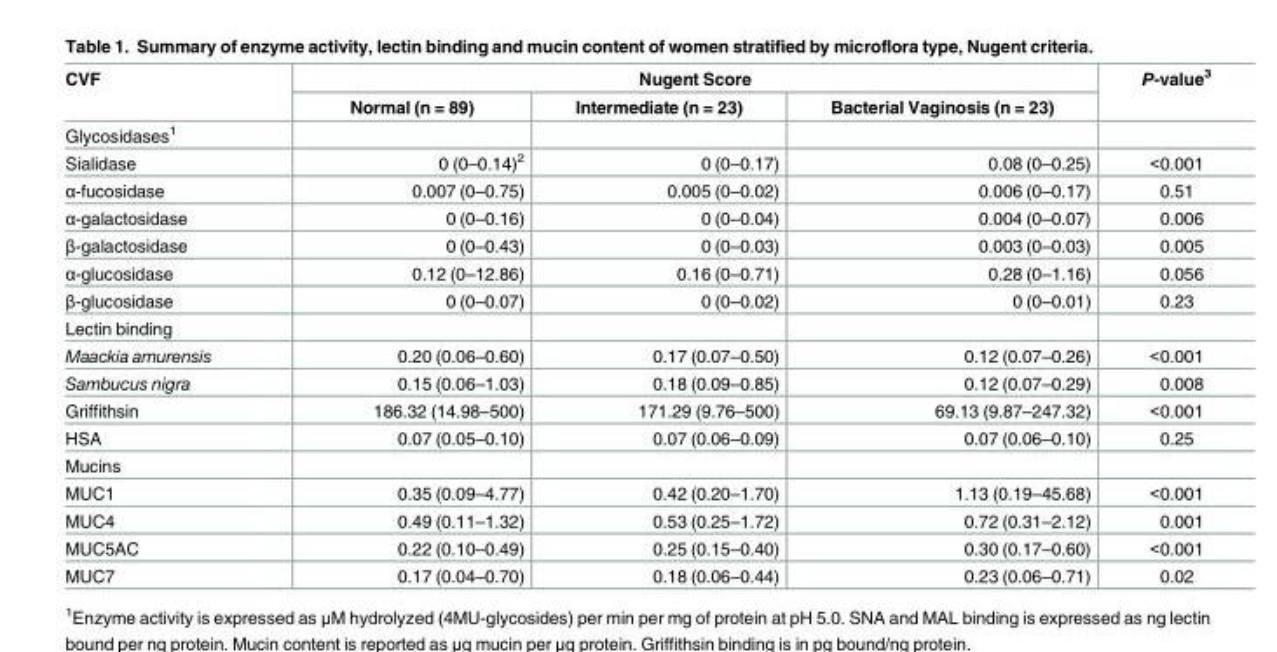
<table><thead><tr><td rowspan="2">CVF</td><td colspan="3">Nugent Score</td><td rowspan="2">P-value<sup>3</sup></td></tr><tr><td>Normal (n = 89)</td><td>Intermediate (n = 23)</td><td>Bacterial Vaginosis (n = 23)</td></tr></thead><tbody><tr><td colspan="5">Glycosidases<sup>1</sup></td></tr><tr><td>Sialidase</td><td>0 (0–0.14)<sup>2</sup></td><td>0 (0–0.17)</td><td>0.08 (0–0.25)</td><td>&lt;0.001</td></tr><tr><td>α-fucosidase</td><td>0.007 (0–0.75)</td><td>0.005 (0–0.02)</td><td>0.006 (0–0.17)</td><td>0.51</td></tr><tr><td>α-galactosidase</td><td>0 (0–0.16)</td><td>0 (0–0.04)</td><td>0.004 (0–0.07)</td><td>0.006</td></tr><tr><td>β-galactosidase</td><td>0 (0–0.43)</td><td>0 (0–0.03)</td><td>0.003 (0–0.03)</td><td>0.005</td></tr><tr><td>α-glucosidase</td><td>0.12 (0–12.86)</td><td>0.16 (0–0.71)</td><td>0.28 (0–1.16)</td><td>0.056</td></tr><tr><td>β-glucosidase</td><td>0 (0–0.07)</td><td>0 (0–0.02)</td><td>0 (0–0.01)</td><td>0.23</td></tr><tr><td colspan="5">Lectin binding</td></tr><tr><td>Maackia amurensis</td><td>0.20 (0.06–0.60)</td><td>0.17 (0.07–0.50)</td><td>0.12 (0.07–0.26)</td><td>&lt;0.001</td></tr><tr><td>Sambucus nigra</td><td>0.15 (0.06–1.03)</td><td>0.18 (0.09–0.85)</td><td>0.12 (0.07–0.29)</td><td>0.008</td></tr><tr><td>Griffithsin</td><td>186.32 (14.98–500)</td><td>171.29 (9.76–500)</td><td>69.13 (9.87–247.32)</td><td>&lt;0.001</td></tr><tr><td>HSA</td><td>0.07 (0.05–0.10)</td><td>0.07 (0.06–0.09)</td><td>0.07 (0.06–0.10)</td><td>0.25</td></tr><tr><td colspan="5">Mucins</td></tr><tr><td>MUC1</td><td>0.35 (0.09–4.77)</td><td>0.42 (0.20–1.70)</td><td>1.13 (0.19–45.68)</td><td>&lt;0.001</td></tr><tr><td>MUC4</td><td>0.49 (0.11–1.32)</td><td>0.53 (0.25–1.72)</td><td>0.72 (0.31–2.12)</td><td>0.001</td></tr><tr><td>MUC5AC</td><td>0.22 (0.10–0.49)</td><td>0.25 (0.15–0.40)</td><td>0.30 (0.17–0.60)</td><td>&lt;0.001</td></tr><tr><td>MUC7</td><td>0.17 (0.04–0.70)</td><td>0.18 (0.06–0.44)</td><td>0.23 (0.06–0.71)</td><td>0.02</td></tr></tbody></table>